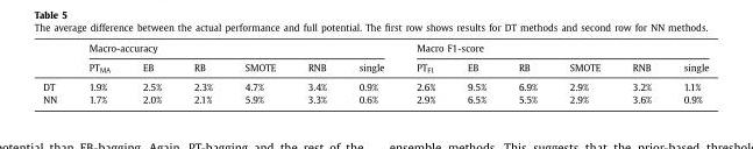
<table><thead><tr><td rowspan="2"></td><td colspan="6">Macro-accuracy</td><td colspan="6">Macro F1-score</td></tr><tr><td>PT <sub>MA</sub></td><td>EB</td><td>RB</td><td>SMOTE</td><td>RNB</td><td>single</td><td>PT <sub>F1</sub></td><td>EB</td><td>RB</td><td>SMOTE</td><td>RNB</td><td>single</td></tr></thead><tbody><tr><td>DT</td><td>1.9%</td><td>2.5%</td><td>2.3%</td><td>4.7%</td><td>3.4%</td><td>0.9%</td><td>2.6%</td><td>9.5%</td><td>6.9%</td><td>2.9%</td><td>3.2%</td><td>1.1%</td></tr><tr><td>NN</td><td>1.7%</td><td>2.0%</td><td>2.1%</td><td>5.9%</td><td>3.3%</td><td>0.6%</td><td>2.9%</td><td>6.5%</td><td>5.5%</td><td>2.9%</td><td>3.6%</td><td>0.9%</td></tr></tbody></table>